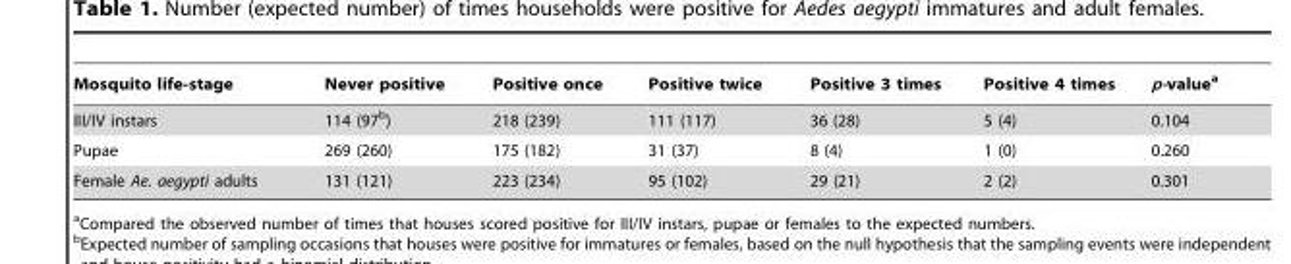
<table><thead><tr><td>Mosquito life-stage</td><td>Never positive</td><td>Positive once</td><td>Positive twice</td><td>Positive 3 times</td><td>Positive 4 times</td><td>p-value<sup>a</sup></td></tr></thead><tbody><tr><td>III/IV instars</td><td>114 (97<sup>b</sup>)</td><td>218 (239)</td><td>111 (117)</td><td>36 (28)</td><td>5 (4)</td><td>0.104</td></tr><tr><td>Pupae</td><td>269 (260)</td><td>175 (182)</td><td>31 (37)</td><td>8 (4)</td><td>1 (0)</td><td>0.260</td></tr><tr><td>Female Ae. aegypti adults</td><td>131 (121)</td><td>223 (234)</td><td>95 (102)</td><td>29 (21)</td><td>2 (2)</td><td>0.301</td></tr></tbody></table>